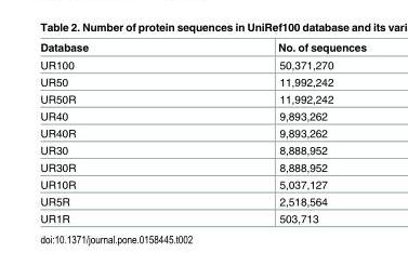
<table><thead><tr><td>Database</td><td>No. of sequences</td></tr></thead><tbody><tr><td>UR100</td><td>50,371,270</td></tr><tr><td>UR50</td><td>11,992,242</td></tr><tr><td>UR50R</td><td>11,992,242</td></tr><tr><td>UR40</td><td>9,893,262</td></tr><tr><td>UR40R</td><td>9,893,262</td></tr><tr><td>UR30</td><td>8,888,952</td></tr><tr><td>UR30R</td><td>8,888,952</td></tr><tr><td>UR10R</td><td>5,037,127</td></tr><tr><td>UR5R</td><td>2,518,564</td></tr><tr><td>UR1R</td><td>503,713</td></tr></tbody></table>